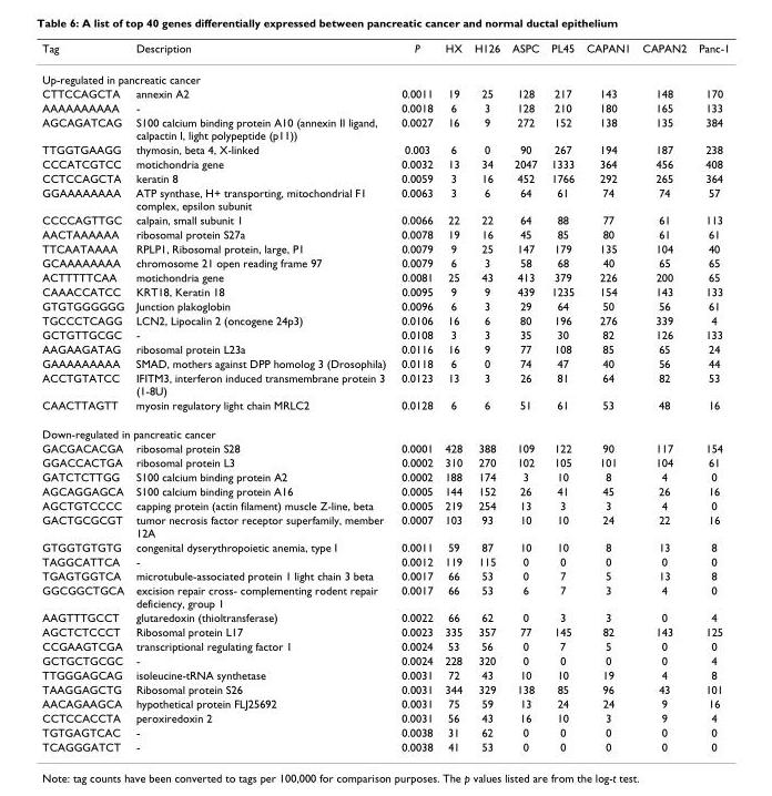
<table><thead><tr><td>Tag</td><td>Description</td><td>P</td><td>HX</td><td>H126</td><td>ASPC</td><td>PL45</td><td>CAPAN1</td><td>CAPAN2</td><td>Panc-1</td></tr></thead><tbody><tr><td colspan="10">Up-regulated in pancreatic cancer</td></tr><tr><td>CTTCCAGCTA</td><td>annexin A2</td><td>0.0011</td><td>19</td><td>25</td><td>128</td><td>217</td><td>143</td><td>148</td><td>170</td></tr><tr><td>AAAAAAAAAA</td><td>-</td><td>0.0018</td><td>6</td><td>3</td><td>128</td><td>210</td><td>180</td><td>165</td><td>133</td></tr><tr><td>AGCAGATCAG</td><td>S100 calcium binding protein A10 (annexin II ligand, calpactin I, light polypeptide (p11))</td><td>0.0027</td><td>16</td><td>9</td><td>272</td><td>152</td><td>138</td><td>135</td><td>384</td></tr><tr><td>TTGGTGAAGG</td><td>thymosin, beta 4, X-linked</td><td>0.003</td><td>6</td><td>0</td><td>90</td><td>267</td><td>194</td><td>187</td><td>238</td></tr><tr><td>CCCATCGTCC</td><td>motichondria gene</td><td>0.0032</td><td>13</td><td>34</td><td>2047</td><td>1333</td><td>364</td><td>456</td><td>408</td></tr><tr><td>CCTCCAGCTA</td><td>keratin 8</td><td>0.0059</td><td>3</td><td>16</td><td>452</td><td>1766</td><td>292</td><td>265</td><td>364</td></tr><tr><td>GGAAAAAAAA</td><td>ATP synthase, H+ transporting, mitochondrial F1 complex, epsilon subunit</td><td>0.0063</td><td>3</td><td>6</td><td>64</td><td>61</td><td>74</td><td>74</td><td>57</td></tr><tr><td>CCCCAGTTGC</td><td>calpain, small subunit 1</td><td>0.0066</td><td>22</td><td>22</td><td>64</td><td>88</td><td>77</td><td>61</td><td>113</td></tr><tr><td>AACTAAAAAA</td><td>ribosomal protein S27a</td><td>0.0078</td><td>19</td><td>16</td><td>45</td><td>85</td><td>80</td><td>61</td><td>61</td></tr><tr><td>TTCAATAAAA</td><td>RPLP1, Ribosomal protein, large, P1</td><td>0.0079</td><td>9</td><td>25</td><td>147</td><td>179</td><td>135</td><td>104</td><td>40</td></tr><tr><td>GCAAAAAAAA</td><td>chromosome 21 open reading frame 97</td><td>0.0079</td><td>6</td><td>3</td><td>58</td><td>68</td><td>40</td><td>65</td><td>65</td></tr><tr><td>ACTTTTTCAA</td><td>motichondria gene</td><td>0.0081</td><td>25</td><td>43</td><td>413</td><td>379</td><td>226</td><td>200</td><td>65</td></tr><tr><td>CAAACCATCC</td><td>KRT18, Keratin 18</td><td>0.0095</td><td>9</td><td>9</td><td>439</td><td>1235</td><td>154</td><td>143</td><td>133</td></tr><tr><td>GTGTGGGGGG</td><td>Junction plakoglobin</td><td>0.0096</td><td>6</td><td>3</td><td>29</td><td>64</td><td>50</td><td>56</td><td>61</td></tr><tr><td>TGCCCTCAGG</td><td>LCN2, Lipocalin 2 (oncogene 24p3)</td><td>0.0106</td><td>16</td><td>6</td><td>80</td><td>196</td><td>276</td><td>339</td><td>4</td></tr><tr><td>GCTGTTGCGC</td><td>-</td><td>0.0108</td><td>3</td><td>3</td><td>35</td><td>30</td><td>82</td><td>126</td><td>133</td></tr><tr><td>AAGAAGATAG</td><td>ribosomal protein L23a</td><td>0.0116</td><td>16</td><td>9</td><td>77</td><td>108</td><td>85</td><td>65</td><td>24</td></tr><tr><td>GAAAAAAAAA</td><td>SMAD, mothers against DPP homolog 3 (Drosophila)</td><td>0.0118</td><td>6</td><td>0</td><td>74</td><td>47</td><td>40</td><td>56</td><td>44</td></tr><tr><td>ACCTGTATCC</td><td>IFITM3, interferon induced transmembrane protein 3 (1-8U)</td><td>0.0123</td><td>13</td><td>3</td><td>26</td><td>81</td><td>64</td><td>82</td><td>53</td></tr><tr><td>CAACTTAGTT</td><td>myosin regulatory light chain MRLC2</td><td>0.0128</td><td>6</td><td>6</td><td>51</td><td>61</td><td>53</td><td>48</td><td>16</td></tr><tr><td colspan="10">Down-regulated in pancreatic cancer</td></tr><tr><td>GACGACACGA</td><td>ribosomal protein S28</td><td>0.0001</td><td>428</td><td>388</td><td>109</td><td>122</td><td>90</td><td>117</td><td>154</td></tr><tr><td>GGACCACTGA</td><td>ribosomal protein L3</td><td>0.0002</td><td>310</td><td>270</td><td>102</td><td>105</td><td>101</td><td>104</td><td>61</td></tr><tr><td>GATCTCTTGG</td><td>S100 calcium binding protein A2</td><td>0.0002</td><td>188</td><td>174</td><td>3</td><td>10</td><td>8</td><td>4</td><td>0</td></tr><tr><td>AGCAGGAGCA</td><td>S100 calcium binding protein A16</td><td>0.0005</td><td>144</td><td>152</td><td>26</td><td>41</td><td>45</td><td>26</td><td>16</td></tr><tr><td>AGCTGTCCCC</td><td>capping protein (actin filament) muscle Z-line, beta</td><td>0.0005</td><td>219</td><td>254</td><td>13</td><td>3</td><td>3</td><td>4</td><td>0</td></tr><tr><td>GACTGCGCGT</td><td>tumor necrosis factor receptor superfamily, member 12A</td><td>0.0007</td><td>103</td><td>93</td><td>10</td><td>10</td><td>24</td><td>22</td><td>16</td></tr><tr><td>GTGGTGTGTG</td><td>congenital dyserythropoietic anemia, type I</td><td>0.0011</td><td>59</td><td>87</td><td>10</td><td>10</td><td>8</td><td>13</td><td>8</td></tr><tr><td>TAGGCATTCA</td><td>-</td><td>0.0012</td><td>119</td><td>115</td><td>0</td><td>0</td><td>0</td><td>0</td><td>0</td></tr><tr><td>TGAGTGGTCA</td><td>microtubule-associated protein 1 light chain 3 beta</td><td>0.0017</td><td>66</td><td>53</td><td>0</td><td>7</td><td>5</td><td>13</td><td>8</td></tr><tr><td>GGCGGCTGCA</td><td>excision repair cross- complementing rodent repair deficiency, group 1</td><td>0.0017</td><td>66</td><td>53</td><td>6</td><td>7</td><td>3</td><td>4</td><td>0</td></tr><tr><td>AAGTTTGCCT</td><td>glutaredoxin (thioltransferase)</td><td>0.0022</td><td>66</td><td>62</td><td>0</td><td>3</td><td>3</td><td>0</td><td>4</td></tr><tr><td>AGCTCTCCCT</td><td>Ribosomal protein L17</td><td>0.0023</td><td>335</td><td>357</td><td>77</td><td>145</td><td>82</td><td>143</td><td>125</td></tr><tr><td>CCGAAGTCGA</td><td>transcriptional regulating factor 1</td><td>0.0024</td><td>53</td><td>56</td><td>0</td><td>7</td><td>5</td><td>0</td><td>0</td></tr><tr><td>GCTGCTGCGC</td><td>-</td><td>0.0024</td><td>228</td><td>320</td><td>0</td><td>0</td><td>0</td><td>0</td><td>4</td></tr><tr><td>TTGGGAGCAG</td><td>isoleucine-tRNA synthetase</td><td>0.0031</td><td>72</td><td>43</td><td>10</td><td>10</td><td>19</td><td>4</td><td>8</td></tr><tr><td>TAAGGAGCTG</td><td>Ribosomal protein S26</td><td>0.0031</td><td>344</td><td>329</td><td>138</td><td>85</td><td>96</td><td>43</td><td>101</td></tr><tr><td>AACAGAAGCA</td><td>hypothetical protein FLJ25692</td><td>0.0031</td><td>75</td><td>59</td><td>13</td><td>24</td><td>24</td><td>9</td><td>16</td></tr><tr><td>CCTCCACCTA</td><td>peroxiredoxin 2</td><td>0.0031</td><td>56</td><td>43</td><td>16</td><td>10</td><td>3</td><td>9</td><td>4</td></tr><tr><td>TGTGAGTCAC</td><td>-</td><td>0.0038</td><td>31</td><td>62</td><td>0</td><td>0</td><td>0</td><td>0</td><td>0</td></tr><tr><td>TCAGGGATCT</td><td>-</td><td>0.0038</td><td>41</td><td>53</td><td>0</td><td>0</td><td>0</td><td>0</td><td>0</td></tr></tbody></table>